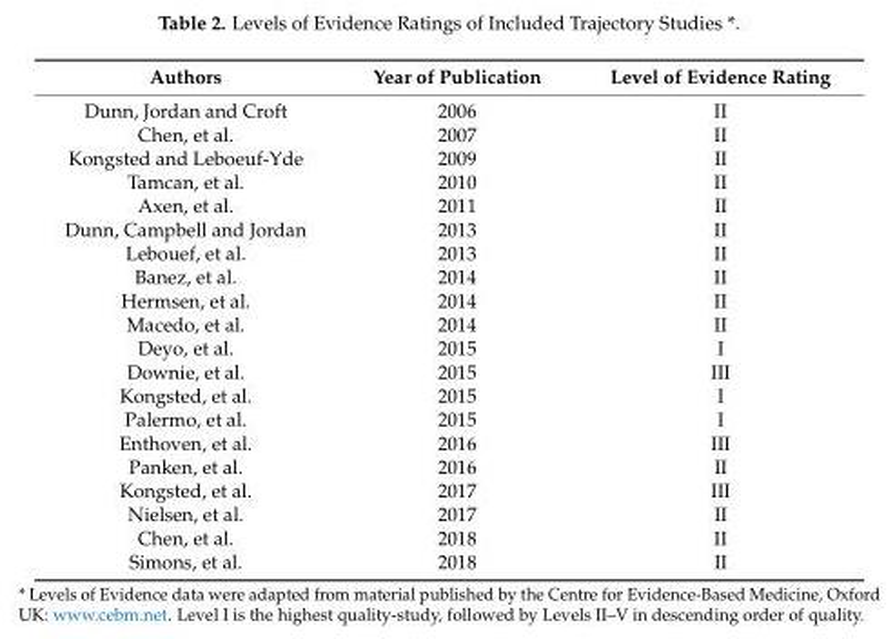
<table><thead><tr><td>Authors</td><td>Year of Publication</td><td>Level of Evidence Rating</td></tr></thead><tbody><tr><td>Dunn, Jordan and Croft</td><td>2006</td><td>II</td></tr><tr><td>Chen, et al.</td><td>2007</td><td>II</td></tr><tr><td>Kongsted and Leboeuf-Yde</td><td>2009</td><td>II</td></tr><tr><td>Tamcan, et al.</td><td>2010</td><td>II</td></tr><tr><td>Axen, et al.</td><td>2011</td><td>II</td></tr><tr><td>Dunn, Campbell and Jordan</td><td>2013</td><td>II</td></tr><tr><td>Lebouef, et al.</td><td>2013</td><td>II</td></tr><tr><td>Banez, et al.</td><td>2014</td><td>II</td></tr><tr><td>Hermsen, et al.</td><td>2014</td><td>II</td></tr><tr><td>Macedo, et al.</td><td>2014</td><td>II</td></tr><tr><td>Deyo, et al.</td><td>2015</td><td>I</td></tr><tr><td>Downie, et al.</td><td>2015</td><td>III</td></tr><tr><td>Kongsted, et al.</td><td>2015</td><td>I</td></tr><tr><td>Palermo, et al.</td><td>2015</td><td>I</td></tr><tr><td>Enthoven, et al.</td><td>2016</td><td>III</td></tr><tr><td>Panken, et al.</td><td>2016</td><td>II</td></tr><tr><td>Kongsted, et al.</td><td>2017</td><td>III</td></tr><tr><td>Nielsen, et al.</td><td>2017</td><td>II</td></tr><tr><td>Chen, et al.</td><td>2018</td><td>II</td></tr><tr><td>Simons, et al.</td><td>2018</td><td>II</td></tr></tbody></table>